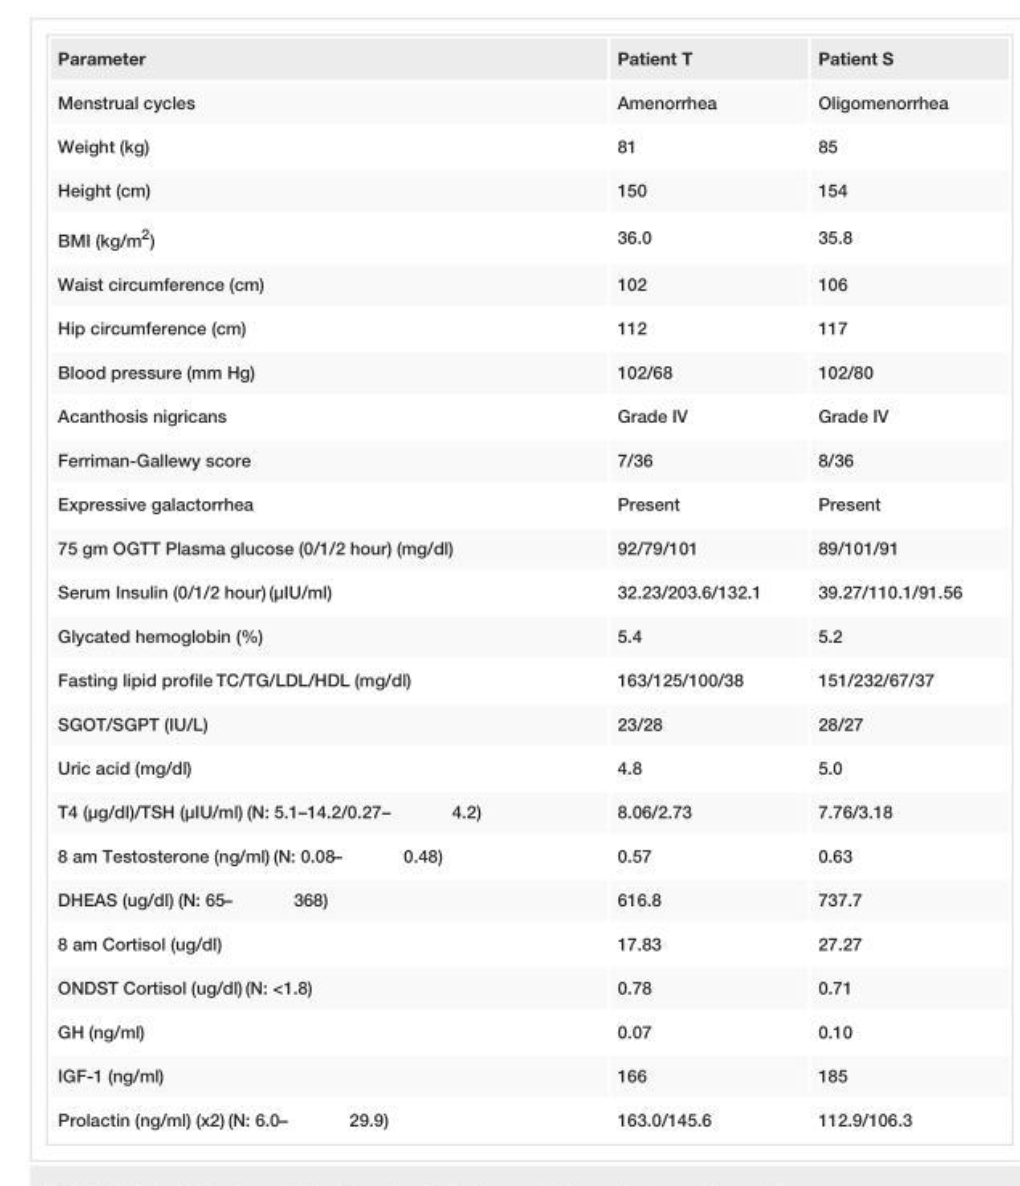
<table><tbody><tr><td>Parameter</td><td>Patient T</td><td>Patient S</td></tr><tr><td>Menstrual cycles</td><td>Amenorrhea</td><td>Oligomenorrhea</td></tr><tr><td>Weight (kg)</td><td>81</td><td>85</td></tr><tr><td>Height (cm)</td><td>150</td><td>154</td></tr><tr><td>BMI (kg/m<sup>2</sup>)</td><td>36.0</td><td>35.8</td></tr><tr><td>Waist circumference (cm)</td><td>102</td><td>106</td></tr><tr><td>Hip circumference (cm)</td><td>112</td><td>117</td></tr><tr><td>Blood pressure (mm Hg)</td><td>102/68</td><td>102/80</td></tr><tr><td>Acanthosis nigricans</td><td>Grade IV</td><td>Grade IV</td></tr><tr><td>Ferriman-Gallewy score</td><td>7/36</td><td>8/36</td></tr><tr><td>Expressive galactorrhea</td><td>Present</td><td>Present</td></tr><tr><td>75 gm OGTT Plasma glucose (0/1/2 hour) (mg/dl)</td><td>92/79/101</td><td>89/101/91</td></tr><tr><td>Serum Insulin (0/1/2 hour) (µIU/ml)</td><td>32.23/203.6/132.1</td><td>39.27/110.1/91.56</td></tr><tr><td>Glycated hemoglobin (%)</td><td>5.4</td><td>5.2</td></tr><tr><td>Fasting lipid profile TC/TG/LDL/HDL (mg/dl)</td><td>163/125/100/38</td><td>151/232/67/37</td></tr><tr><td>SGOT/SGPT (IU/L)</td><td>23/28</td><td>28/27</td></tr><tr><td>Uric acid (mg/dl)</td><td>4.8</td><td>5.0</td></tr><tr><td>T4 (µg/dl)/TSH (µIU/ml) (N: 5.1–14.2/0.27–4.2)</td><td>8.06/2.73</td><td>7.76/3.18</td></tr><tr><td>8 am Testosterone (ng/ml) (N: 0.08–0.48)</td><td>0.57</td><td>0.63</td></tr><tr><td>DHEAS (ug/dl) (N: 65–368)</td><td>616.8</td><td>737.7</td></tr><tr><td>8 am Cortisol (ug/dl)</td><td>17.83</td><td>27.27</td></tr><tr><td>ONDST Cortisol (ug/dl) (N: &lt;1.8)</td><td>0.78</td><td>0.71</td></tr><tr><td>GH (ng/ml)</td><td>0.07</td><td>0.10</td></tr><tr><td>IGF-1 (ng/ml)</td><td>166</td><td>185</td></tr><tr><td>Prolactin (ng/ml) (x2) (N: 6.0–29.9)</td><td>163.0/145.6</td><td>112.9/106.3</td></tr></tbody></table>